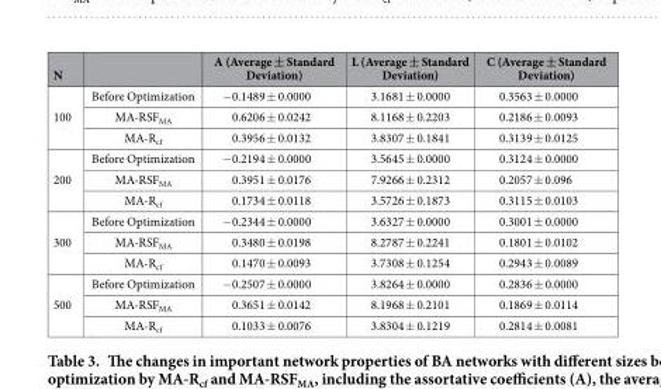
<table><thead><tr><td>N</td><td></td><td>A (Average ± Standard Deviation)</td><td>L (Average ± Standard Deviation)</td><td>C (Average ± Standard Deviation)</td></tr></thead><tbody><tr><td rowspan="3">100</td><td>Before Optimization</td><td>− 0.1489 ± 0.0000</td><td>3.1681 ± 0.0000</td><td>0.3563 ± 0.0000</td></tr><tr><td>MA-RSF<sub>MA</sub></td><td>0.6206 ± 0.0242</td><td>8.1168 ± 0.2203</td><td>0.2186 ± 0.0093</td></tr><tr><td>MA-R<sub>cf</sub></td><td>0.3956 ± 0.0132</td><td>3.8307 ± 0.1841</td><td>0.3139 ± 0.0125</td></tr><tr><td rowspan="3">200</td><td>Before Optimization</td><td>− 0.2194 ± 0.0000</td><td>3.5645 ± 0.0000</td><td>0.3124 ± 0.0000</td></tr><tr><td>MA-RSF<sub>MA</sub></td><td>0.3951 ± 0.0176</td><td>7.9266 ± 0.2312</td><td>0.2057 ± 0.096</td></tr><tr><td>MA-R<sub>cf</sub></td><td>0.1734 ± 0.0118</td><td>3.5726 ± 0.1873</td><td>0.3115 ± 0.0103</td></tr><tr><td rowspan="3">300</td><td>Before Optimization</td><td>− 0.2344 ± 0.0000</td><td>3.6327 ± 0.0000</td><td>0.3001 ± 0.0000</td></tr><tr><td>MA-RSF<sub>MA</sub></td><td>0.3480 ± 0.0198</td><td>8.2787 ± 0.2241</td><td>0.1801 ± 0.0102</td></tr><tr><td>MA-R<sub>cf</sub></td><td>0.1470 ± 0.0093</td><td>3.7308 ± 0.1254</td><td>0.2943 ± 0.0089</td></tr><tr><td rowspan="3">500</td><td>Before Optimization</td><td>− 0.2507 ± 0.0000</td><td>3.8264 ± 0.0000</td><td>0.2836 ± 0.0000</td></tr><tr><td>MA-RSF<sub>MA</sub></td><td>0.3651 ± 0.0142</td><td>8.1968 ± 0.2101</td><td>0.1869 ± 0.0114</td></tr><tr><td>MA-R<sub>cf</sub></td><td>0.1033 ± 0.0076</td><td>3.8304 ± 0.1219</td><td>0.2814 ± 0.0081</td></tr></tbody></table>